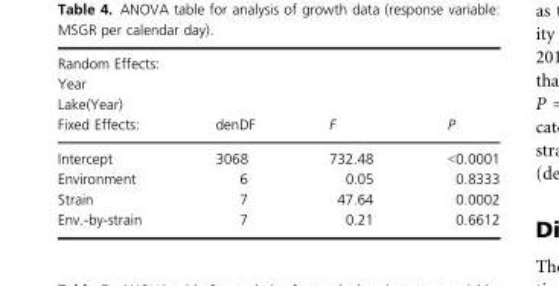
<table><thead><tr><td rowspan="3" colspan="4">Random Effects: Year Lake(Year)</td></tr><tr></tr><tr></tr><tr><td>Fixed Effects:</td><td>denDF</td><td>F</td><td>P</td></tr></thead><tbody><tr><td>Intercept</td><td>3068</td><td>732.48</td><td>&lt;0.0001</td></tr><tr><td>Environment</td><td>6</td><td>0.05</td><td>0.8333</td></tr><tr><td>Strain</td><td>7</td><td>47.64</td><td>0.0002</td></tr><tr><td>Env.-by-strain</td><td>7</td><td>0.21</td><td>0.6612</td></tr></tbody></table>